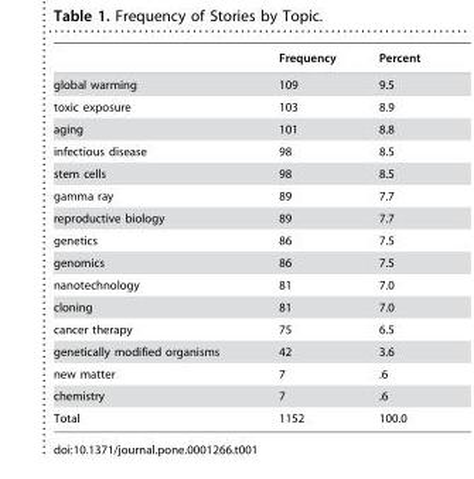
<table><thead><tr><td></td><td>Frequency</td><td>Percent</td></tr></thead><tbody><tr><td>global warming</td><td>109</td><td>9.5</td></tr><tr><td>toxic exposure</td><td>103</td><td>8.9</td></tr><tr><td>aging</td><td>101</td><td>8.8</td></tr><tr><td>infectious disease</td><td>98</td><td>8.5</td></tr><tr><td>stem cells</td><td>98</td><td>8.5</td></tr><tr><td>gamma ray</td><td>89</td><td>7.7</td></tr><tr><td>reproductive biology</td><td>89</td><td>7.7</td></tr><tr><td>genetics</td><td>86</td><td>7.5</td></tr><tr><td>genomics</td><td>86</td><td>7.5</td></tr><tr><td>nanotechnology</td><td>81</td><td>7.0</td></tr><tr><td>cloning</td><td>81</td><td>7.0</td></tr><tr><td>cancer therapy</td><td>75</td><td>6.5</td></tr><tr><td>genetically modified organisms</td><td>42</td><td>3.6</td></tr><tr><td>new matter</td><td>7</td><td>.6</td></tr><tr><td>chemistry</td><td>7</td><td>.6</td></tr><tr><td>Total</td><td>1152</td><td>100.0</td></tr></tbody></table>